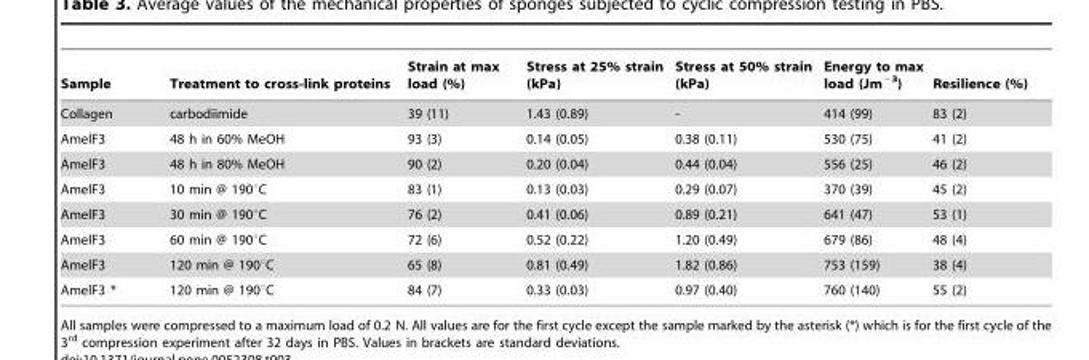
<table><thead><tr><td>Sample</td><td>Treatment to cross-link proteins</td><td>Strain at max load (%)</td><td>Stress at 25% strain (kPa)</td><td>Stress at 50% strain (kPa)</td><td>Energy to max load (Jm<sup>−3</sup>)</td><td>Resilience (%)</td></tr></thead><tbody><tr><td>Collagen</td><td>carbodiimide</td><td>39 (11)</td><td>1.43 (0.89)</td><td>-</td><td>414 (99)</td><td>83 (2)</td></tr><tr><td>AmelF3</td><td>48 h in 60% MeOH</td><td>93 (3)</td><td>0.14 (0.05)</td><td>0.38 (0.11)</td><td>530 (75)</td><td>41 (2)</td></tr><tr><td>AmelF3</td><td>48 h in 80% MeOH</td><td>90 (2)</td><td>0.20 (0.04)</td><td>0.44 (0.04)</td><td>556 (25)</td><td>46 (2)</td></tr><tr><td>AmelF3</td><td>10 min @ 190°C</td><td>83 (1)</td><td>0.13 (0.03)</td><td>0.29 (0.07)</td><td>370 (39)</td><td>45 (2)</td></tr><tr><td>AmelF3</td><td>30 min @ 190°C</td><td>76 (2)</td><td>0.41 (0.06)</td><td>0.89 (0.21)</td><td>641 (47)</td><td>53 (1)</td></tr><tr><td>AmelF3</td><td>60 min @ 190°C</td><td>72 (6)</td><td>0.52 (0.22)</td><td>1.20 (0.49)</td><td>679 (86)</td><td>48 (4)</td></tr><tr><td>AmelF3</td><td>120 min @ 190°C</td><td>65 (8)</td><td>0.81 (0.49)</td><td>1.82 (0.86)</td><td>753 (159)</td><td>38 (4)</td></tr><tr><td>AmelF3 *</td><td>120 min @ 190°C</td><td>84 (7)</td><td>0.33 (0.03)</td><td>0.97 (0.40)</td><td>760 (140)</td><td>55 (2)</td></tr></tbody></table>